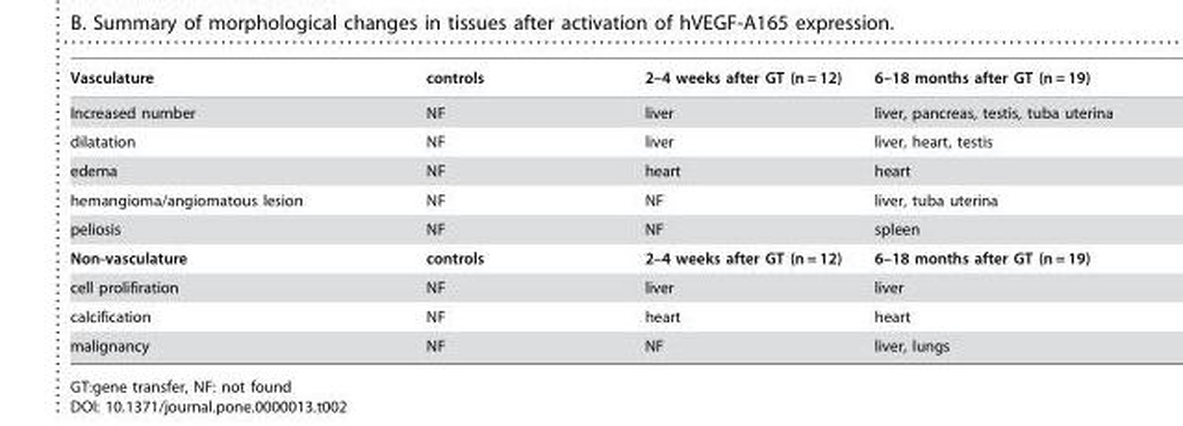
<table><thead><tr><td>Vasculature</td><td>controls</td><td>2–4 weeks after GT (n = 12)</td><td>6–18 months after GT (n = 19)</td></tr></thead><tbody><tr><td>Increased number</td><td>NF</td><td>liver</td><td>liver, pancreas, testis, tuba uterina</td></tr><tr><td>dilatation</td><td>NF</td><td>liver</td><td>liver, heart, testis</td></tr><tr><td>edema</td><td>NF</td><td>heart</td><td>heart</td></tr><tr><td>hemangioma/angiomatous lesion</td><td>NF</td><td>NF</td><td>liver, tuba uterina</td></tr><tr><td>peliosis</td><td>NF</td><td>NF</td><td>spleen</td></tr><tr><td>Non-vasculature</td><td>controls</td><td>2–4 weeks after GT (n = 12)</td><td>6–18 months after GT (n = 19)</td></tr><tr><td>cell prolifiration</td><td>NF</td><td>liver</td><td>liver</td></tr><tr><td>calcification</td><td>NF</td><td>heart</td><td>heart</td></tr><tr><td>malignancy</td><td>NF</td><td>NF</td><td>liver, lungs</td></tr></tbody></table>